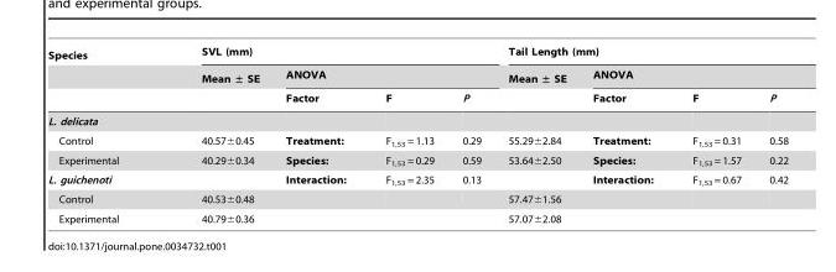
<table><thead><tr><td rowspan="3">Species</td><td colspan="4">SVL (mm)</td><td colspan="4">Tail Length (mm)</td></tr><tr><td rowspan="2">Mean ± SE</td><td colspan="3">ANOVA</td><td rowspan="2">Mean ± SE</td><td colspan="3">ANOVA</td></tr><tr><td>Factor</td><td>F</td><td>P</td><td>Factor</td><td>F</td><td>P</td></tr></thead><tbody><tr><td colspan="9">L. delicata</td></tr><tr><td>Control</td><td>40.57±0.45</td><td>Treatment:</td><td>F<sub>1,53</sub> = 1.13</td><td>0.29</td><td>55.29±2.84</td><td>Treatment:</td><td>F<sub>1,53</sub> = 0.31</td><td>0.58</td></tr><tr><td>Experimental</td><td>40.29±0.34</td><td>Species:</td><td>F<sub>1,53</sub> = 0.29</td><td>0.59</td><td>53.64±2.50</td><td>Species:</td><td>F<sub>1,53</sub> = 1.57</td><td>0.22</td></tr><tr><td>L. guichenoti</td><td></td><td>Interaction:</td><td>F<sub>1,53</sub> = 2.35</td><td>0.13</td><td></td><td>Interaction:</td><td>F<sub>1,53</sub> = 0.67</td><td>0.42</td></tr><tr><td>Control</td><td>40.53±0.48</td><td></td><td></td><td></td><td>57.47±1.56</td><td></td><td></td><td></td></tr><tr><td>Experimental</td><td>40.79±0.36</td><td></td><td></td><td></td><td>57.07±2.08</td><td></td><td></td><td></td></tr></tbody></table>